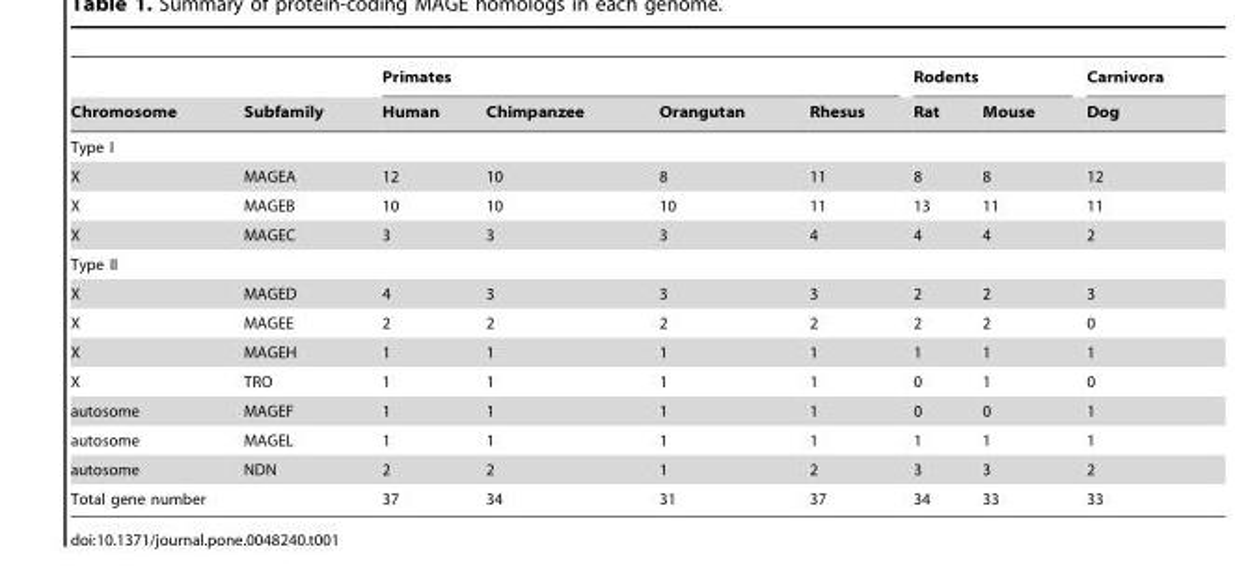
<table><thead><tr><td rowspan="2">Chromosome</td><td rowspan="2">Subfamily</td><td colspan="4">Primates</td><td colspan="2">Rodents</td><td rowspan="2">Carnivora Dog</td></tr><tr><td>Human</td><td>Chimpanzee</td><td>Orangutan</td><td>Rhesus</td><td>Rat</td><td>Mouse</td></tr></thead><tbody><tr><td colspan="9">Type I</td></tr><tr><td>X</td><td>MAGEA</td><td>12</td><td>10</td><td>8</td><td>11</td><td>8</td><td>8</td><td>12</td></tr><tr><td>X</td><td>MAGEB</td><td>10</td><td>10</td><td>10</td><td>11</td><td>13</td><td>11</td><td>11</td></tr><tr><td>X</td><td>MAGEC</td><td>3</td><td>3</td><td>3</td><td>4</td><td>4</td><td>4</td><td>2</td></tr><tr><td colspan="9">Type II</td></tr><tr><td>X</td><td>MAGED</td><td>4</td><td>3</td><td>3</td><td>3</td><td>2</td><td>2</td><td>3</td></tr><tr><td>X</td><td>MAGEE</td><td>2</td><td>2</td><td>2</td><td>2</td><td>2</td><td>2</td><td>0</td></tr><tr><td>X</td><td>MAGEH</td><td>1</td><td>1</td><td>1</td><td>1</td><td>1</td><td>1</td><td>1</td></tr><tr><td>X</td><td>TRO</td><td>1</td><td>1</td><td>1</td><td>1</td><td>0</td><td>1</td><td>0</td></tr><tr><td>autosome</td><td>MAGEF</td><td>1</td><td>1</td><td>1</td><td>1</td><td>0</td><td>0</td><td>1</td></tr><tr><td>autosome</td><td>MAGEL</td><td>1</td><td>1</td><td>1</td><td>1</td><td>1</td><td>1</td><td>1</td></tr><tr><td>autosome</td><td>NDN</td><td>2</td><td>2</td><td>1</td><td>2</td><td>3</td><td>3</td><td>2</td></tr><tr><td colspan="2">Total gene number</td><td>37</td><td>34</td><td>31</td><td>37</td><td>34</td><td>33</td><td>33</td></tr></tbody></table>